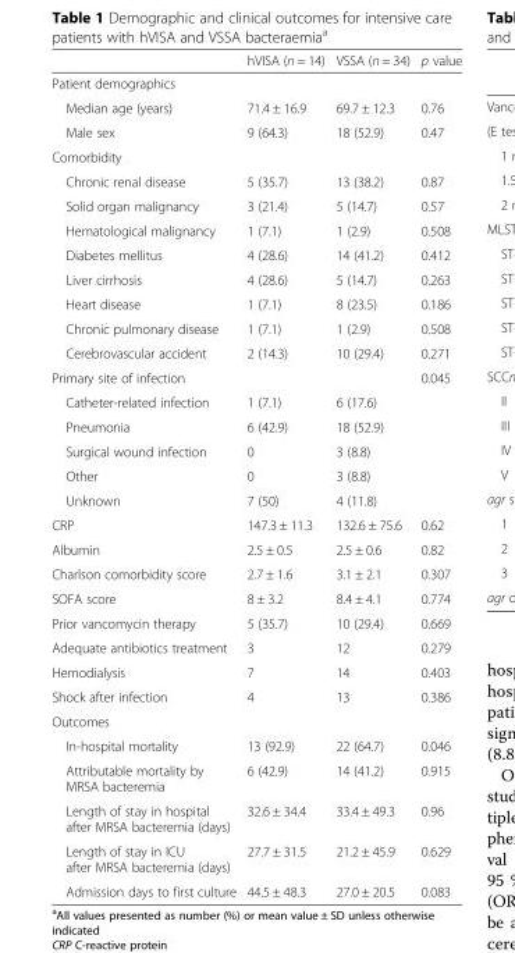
<table><thead><tr><td></td><td>hVISA (n = 14)</td><td>VSSA (n = 34)</td><td>p value</td></tr></thead><tbody><tr><td colspan="4">Patient demographics</td></tr><tr><td>Median age (years)</td><td>71.4 ± 16.9</td><td>69.7 ± 12.3</td><td>0.76</td></tr><tr><td>Male sex</td><td>9 (64.3)</td><td>18 (52.9)</td><td>0.47</td></tr><tr><td colspan="4">Comorbidity</td></tr><tr><td>Chronic renal disease</td><td>5 (35.7)</td><td>13 (38.2)</td><td>0.87</td></tr><tr><td>Solid organ malignancy</td><td>3 (21.4)</td><td>5 (14.7)</td><td>0.57</td></tr><tr><td>Hematological malignancy</td><td>1 (7.1)</td><td>1 (2.9)</td><td>0.508</td></tr><tr><td>Diabetes mellitus</td><td>4 (28.6)</td><td>14 (41.2)</td><td>0.412</td></tr><tr><td>Liver cirrhosis</td><td>4 (28.6)</td><td>5 (14.7)</td><td>0.263</td></tr><tr><td>Heart disease</td><td>1 (7.1)</td><td>8 (23.5)</td><td>0.186</td></tr><tr><td>Chronic pulmonary disease</td><td>1 (7.1)</td><td>1 (2.9)</td><td>0.508</td></tr><tr><td>Cerebrovascular accident</td><td>2 (14.3)</td><td>10 (29.4)</td><td>0.271</td></tr><tr><td>Primary site of infection</td><td></td><td></td><td>0.045</td></tr><tr><td>Catheter-related infection</td><td>1 (7.1)</td><td>6 (17.6)</td><td></td></tr><tr><td>Pneumonia</td><td>6 (42.9)</td><td>18 (52.9)</td><td></td></tr><tr><td>Surgical wound infection</td><td>0</td><td>3 (8.8)</td><td></td></tr><tr><td>Other</td><td>0</td><td>3 (8.8)</td><td></td></tr><tr><td>Unknown</td><td>7 (50)</td><td>4 (11.8)</td><td></td></tr><tr><td>CRP</td><td>147.3 ± 11.3</td><td>132.6 ± 75.6</td><td>0.62</td></tr><tr><td>Albumin</td><td>2.5 ± 0.5</td><td>2.5 ± 0.6</td><td>0.82</td></tr><tr><td>Charlson comorbidity score</td><td>2.7 ± 1.6</td><td>3.1 ± 2.1</td><td>0.307</td></tr><tr><td>SOFA score</td><td>8 ± 3.2</td><td>8.4 ± 4.1</td><td>0.774</td></tr><tr><td>Prior vancomycin therapy</td><td>5 (35.7)</td><td>10 (29.4)</td><td>0.669</td></tr><tr><td>Adequate antibiotics treatment</td><td>3</td><td>12</td><td>0.279</td></tr><tr><td>Hemodialysis</td><td>7</td><td>14</td><td>0.403</td></tr><tr><td>Shock after infection</td><td>4</td><td>13</td><td>0.386</td></tr><tr><td colspan="4">Outcomes</td></tr><tr><td>In-hospital mortality</td><td>13 (92.9)</td><td>22 (64.7)</td><td>0.046</td></tr><tr><td>Attributable mortality by MRSA bacteremia</td><td>6 (42.9)</td><td>14 (41.2)</td><td>0.915</td></tr><tr><td>Length of stay in hospital after MRSA bacteremia (days)</td><td>32.6 ± 34.4</td><td>33.4 ± 49.3</td><td>0.96</td></tr><tr><td>Length of stay in ICU after MRSA bacteremia (days)</td><td>27.7 ± 31.5</td><td>21.2 ± 45.9</td><td>0.629</td></tr><tr><td>Admission days to first culture</td><td>44.5 ± 48.3</td><td>27.0 ± 20.5</td><td>0.083</td></tr></tbody></table>